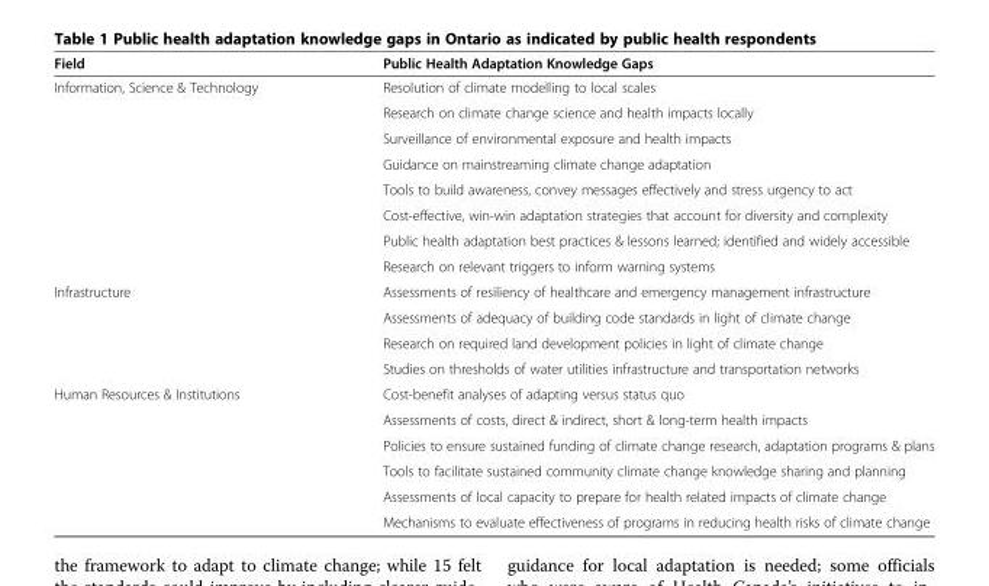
<table><thead><tr><td>Field</td><td>Public Health Adaptation Knowledge Gaps</td></tr></thead><tbody><tr><td rowspan="8">Information, Science &amp; Technology</td><td>Resolution of climate modelling to local scales</td></tr><tr><td>Research on climate change science and health impacts locally</td></tr><tr><td>Surveillance of environmental exposure and health impacts</td></tr><tr><td>Guidance on mainstreaming climate change adaptation</td></tr><tr><td>Tools to build awareness, convey messages effectively and stress urgency to act</td></tr><tr><td>Cost-effective, win-win adaptation strategies that account for diversity and complexity</td></tr><tr><td>Public health adaptation best practices &amp; lessons learned; identified and widely accessible</td></tr><tr><td>Research on relevant triggers to inform warning systems</td></tr><tr><td rowspan="4">Infrastructure</td><td>Assessments of resiliency of healthcare and emergency management infrastructure</td></tr><tr><td>Assessments of adequacy of building code standards in light of climate change</td></tr><tr><td>Research on required land development policies in light of climate change</td></tr><tr><td>Studies on thresholds of water utilities infrastructure and transportation networks</td></tr><tr><td rowspan="6">Human Resources &amp; Institutions</td><td>Cost-benefit analyses of adapting versus status quo</td></tr><tr><td>Assessments of costs, direct &amp; indirect, short &amp; long-term health impacts</td></tr><tr><td>Policies to ensure sustained funding of climate change research, adaptation programs &amp; plans</td></tr><tr><td>Tools to facilitate sustained community climate change knowledge sharing and planning</td></tr><tr><td>Assessments of local capacity to prepare for health related impacts of climate change</td></tr><tr><td>Mechanisms to evaluate effectiveness of programs in reducing health risks of climate change</td></tr></tbody></table>